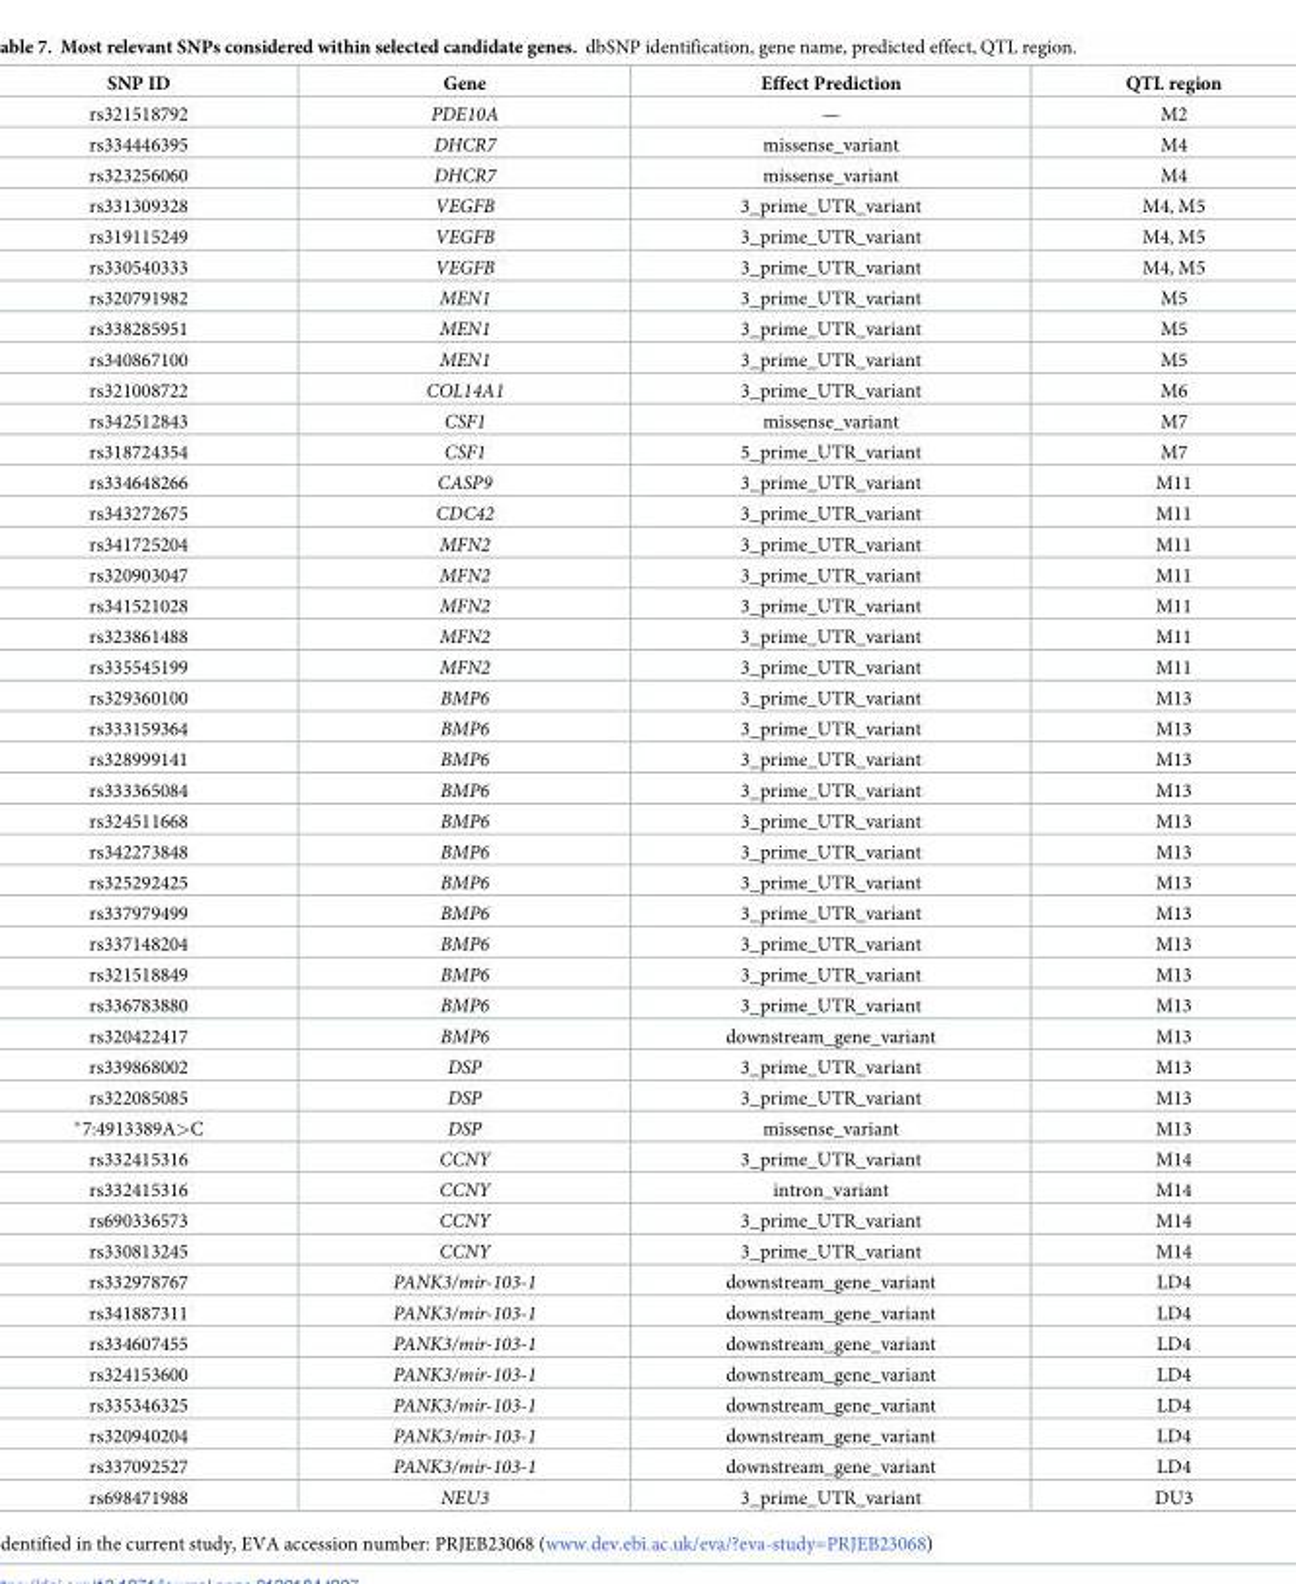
<table><thead><tr><td>SNP ID</td><td>Gene</td><td>Effect Prediction</td><td>QTL region</td></tr></thead><tbody><tr><td>rs321518792</td><td>PDE10A</td><td>—</td><td>M2</td></tr><tr><td>rs334446395</td><td>DHCR7</td><td>missense_variant</td><td>M4</td></tr><tr><td>rs323256060</td><td>DHCR7</td><td>missense_variant</td><td>M4</td></tr><tr><td>rs331309328</td><td>VEGFB</td><td>3_prime_UTR_variant</td><td>M4, M5</td></tr><tr><td>rs319115249</td><td>VEGFB</td><td>3_prime_UTR_variant</td><td>M4, M5</td></tr><tr><td>rs330540333</td><td>VEGFB</td><td>3_prime_UTR_variant</td><td>M4, M5</td></tr><tr><td>rs320791982</td><td>MEN1</td><td>3_prime_UTR_variant</td><td>M5</td></tr><tr><td>rs338285951</td><td>MEN1</td><td>3_prime_UTR_variant</td><td>M5</td></tr><tr><td>rs340867100</td><td>MEN1</td><td>3_prime_UTR_variant</td><td>M5</td></tr><tr><td>rs321008722</td><td>COL14A1</td><td>3_prime_UTR_variant</td><td>M6</td></tr><tr><td>rs342512843</td><td>CSF1</td><td>missense_variant</td><td>M7</td></tr><tr><td>rs318724354</td><td>CSF1</td><td>5_prime_UTR_variant</td><td>M7</td></tr><tr><td>rs334648266</td><td>CASP9</td><td>3_prime_UTR_variant</td><td>M11</td></tr><tr><td>rs343272675</td><td>CDC42</td><td>3_prime_UTR_variant</td><td>M11</td></tr><tr><td>rs341725204</td><td>MFN2</td><td>3_prime_UTR_variant</td><td>M11</td></tr><tr><td>rs320903047</td><td>MFN2</td><td>3_prime_UTR_variant</td><td>M11</td></tr><tr><td>rs341521028</td><td>MFN2</td><td>3_prime_UTR_variant</td><td>M11</td></tr><tr><td>rs323861488</td><td>MFN2</td><td>3_prime_UTR_variant</td><td>M11</td></tr><tr><td>rs335545199</td><td>MFN2</td><td>3_prime_UTR_variant</td><td>M11</td></tr><tr><td>rs329360100</td><td>BMP6</td><td>3_prime_UTR_variant</td><td>M13</td></tr><tr><td>rs333159364</td><td>BMP6</td><td>3_prime_UTR_variant</td><td>M13</td></tr><tr><td>rs328999141</td><td>BMP6</td><td>3_prime_UTR_variant</td><td>M13</td></tr><tr><td>rs333365084</td><td>BMP6</td><td>3_prime_UTR_variant</td><td>M13</td></tr><tr><td>rs324511668</td><td>BMP6</td><td>3_prime_UTR_variant</td><td>M13</td></tr><tr><td>rs342273848</td><td>BMP6</td><td>3_prime_UTR_variant</td><td>M13</td></tr><tr><td>rs325292425</td><td>BMP6</td><td>3_prime_UTR_variant</td><td>M13</td></tr><tr><td>rs337979499</td><td>BMP6</td><td>3_prime_UTR_variant</td><td>M13</td></tr><tr><td>rs337148204</td><td>BMP6</td><td>3_prime_UTR_variant</td><td>M13</td></tr><tr><td>rs321518849</td><td>BMP6</td><td>3_prime_UTR_variant</td><td>M13</td></tr><tr><td>rs336783880</td><td>BMP6</td><td>3_prime_UTR_variant</td><td>M13</td></tr><tr><td>rs320422417</td><td>BMP6</td><td>downstream_gene_variant</td><td>M13</td></tr><tr><td>rs339868002</td><td>DSP</td><td>3_prime_UTR_variant</td><td>M13</td></tr><tr><td>rs322085085</td><td>DSP</td><td>3_prime_UTR_variant</td><td>M13</td></tr><tr><td>*7:4913389A&gt;C</td><td>DSP</td><td>missense_variant</td><td>M13</td></tr><tr><td>rs332415316</td><td>CCNY</td><td>3_prime_UTR_variant</td><td>M14</td></tr><tr><td>rs332415316</td><td>CCNY</td><td>intron_variant</td><td>M14</td></tr><tr><td>rs690336573</td><td>CCNY</td><td>3_prime_UTR_variant</td><td>M14</td></tr><tr><td>rs330813245</td><td>CCNY</td><td>3_prime_UTR_variant</td><td>M14</td></tr><tr><td>rs332978767</td><td>PANK3/mir-103-1</td><td>downstream_gene_variant</td><td>LD4</td></tr><tr><td>rs341887311</td><td>PANK3/mir-103-1</td><td>downstream_gene_variant</td><td>LD4</td></tr><tr><td>rs334607455</td><td>PANK3/mir-103-1</td><td>downstream_gene_variant</td><td>LD4</td></tr><tr><td>rs324153600</td><td>PANK3/mir-103-1</td><td>downstream_gene_variant</td><td>LD4</td></tr><tr><td>rs335346325</td><td>PANK3/mir-103-1</td><td>downstream_gene_variant</td><td>LD4</td></tr><tr><td>rs320940204</td><td>PANK3/mir-103-1</td><td>downstream_gene_variant</td><td>LD4</td></tr><tr><td>rs337092527</td><td>PANK3/mir-103-1</td><td>downstream_gene_variant</td><td>LD4</td></tr><tr><td>rs698471988</td><td>NEU3</td><td>3_prime_UTR_variant</td><td>DU3</td></tr></tbody></table>